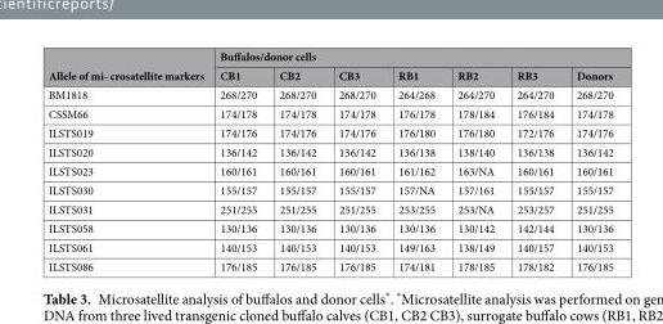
<table><thead><tr><td rowspan="2">Allele of mi- crosatellite markers</td><td colspan="7">Buffalos/donor cells</td></tr><tr><td>CB1</td><td>CB2</td><td>CB3</td><td>RB1</td><td>RB2</td><td>RB3</td><td>Donors</td></tr></thead><tbody><tr><td>BM1818</td><td>268/270</td><td>268/270</td><td>268/270</td><td>264/268</td><td>264/270</td><td>264/270</td><td>268/270</td></tr><tr><td>CSSM66</td><td>174/178</td><td>174/178</td><td>174/178</td><td>176/178</td><td>178/184</td><td>176/184</td><td>174/178</td></tr><tr><td>ILSTS019</td><td>174/176</td><td>174/176</td><td>174/176</td><td>176/180</td><td>176/180</td><td>172/176</td><td>174/176</td></tr><tr><td>ILSTS020</td><td>136/142</td><td>136/142</td><td>136/142</td><td>136/138</td><td>138/140</td><td>136/138</td><td>136/142</td></tr><tr><td>ILSTS023</td><td>160/161</td><td>160/161</td><td>160/161</td><td>161/162</td><td>163/NA</td><td>160/161</td><td>160/161</td></tr><tr><td>ILSTS030</td><td>155/157</td><td>155/157</td><td>155/157</td><td>157/NA</td><td>157/161</td><td>155/157</td><td>155/157</td></tr><tr><td>ILSTS031</td><td>251/255</td><td>251/255</td><td>251/255</td><td>253/255</td><td>253/NA</td><td>253/257</td><td>251/255</td></tr><tr><td>ILSTS058</td><td>130/136</td><td>130/136</td><td>130/136</td><td>130/136</td><td>130/142</td><td>142/144</td><td>130/136</td></tr><tr><td>ILSTS061</td><td>140/153</td><td>140/153</td><td>140/153</td><td>149/163</td><td>138/149</td><td>140/157</td><td>140/153</td></tr><tr><td>ILSTS086</td><td>176/185</td><td>176/185</td><td>176/185</td><td>174/181</td><td>178/185</td><td>178/182</td><td>176/185</td></tr></tbody></table>